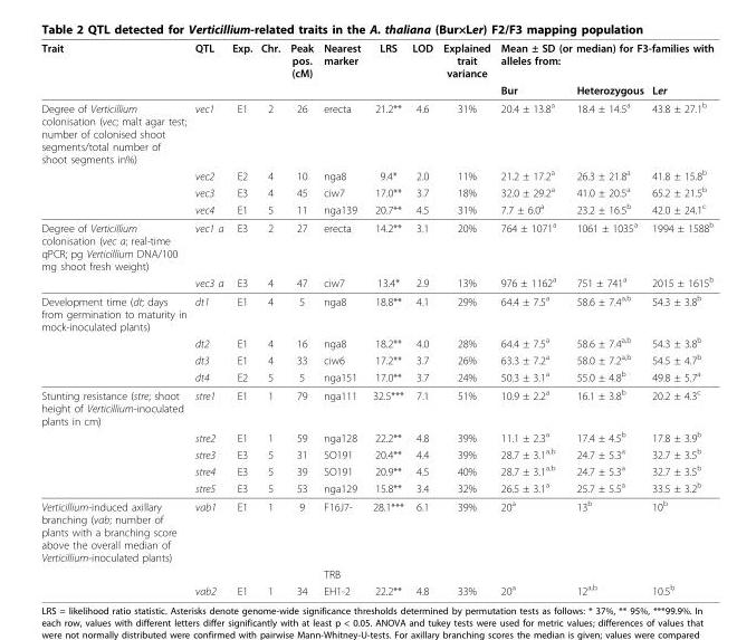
<table><thead><tr><td rowspan="2">Trait</td><td rowspan="2">QTL</td><td rowspan="2">Exp.</td><td rowspan="2">Chr.</td><td rowspan="2">Peak pos. (cM)</td><td rowspan="2">Nearest marker</td><td rowspan="2">LRS</td><td rowspan="2">LOD</td><td rowspan="2">Explained trait variance</td><td colspan="3">Mean ± SD (or median) for F3-families with alleles from:</td></tr><tr><td>Bur</td><td>Heterozygous</td><td>Ler</td></tr></thead><tbody><tr><td rowspan="4">Degree of Verticillium colonisation (vec; malt agar test; number of colonised shoot segments/total number of shoot segments in%)</td><td>vec1</td><td>E1</td><td>2</td><td>26</td><td>erecta</td><td>21.2**</td><td>4.6</td><td>31%</td><td>20.4 ± 13.8<sup>a</sup></td><td>18.4 ± 14.5<sup>a</sup></td><td>43.8 ± 27.1<sup>b</sup></td></tr><tr><td>vec2</td><td>E2</td><td>4</td><td>10</td><td>nga8</td><td>9.4*</td><td>2.0</td><td>11%</td><td>21.2 ± 17.2<sup>a</sup></td><td>26.3 ± 21.8<sup>a</sup></td><td>41.8 ± 15.8<sup>b</sup></td></tr><tr><td>vec3</td><td>E3</td><td>4</td><td>45</td><td>ciw7</td><td>17.0**</td><td>3.7</td><td>18%</td><td>32.0 ± 29.2<sup>a</sup></td><td>41.0 ± 20.5<sup>a</sup></td><td>65.2 ± 21.5<sup>b</sup></td></tr><tr><td>vec4</td><td>E1</td><td>5</td><td>11</td><td>nga139</td><td>20.7**</td><td>4.5</td><td>31%</td><td>7.7 ± 6.0<sup>a</sup></td><td>23.2 ± 16.5<sup>b</sup></td><td>42.0 ± 24.1<sup>c</sup></td></tr><tr><td rowspan="2">Degree of Verticillium colonisation (vec a; real-time qPCR; pg Verticillium DNA/100 mg shoot fresh weight)</td><td>vec1 a</td><td>E3</td><td>2</td><td>27</td><td>erecta</td><td>14.2**</td><td>3.1</td><td>20%</td><td>764 ± 1071<sup>a</sup></td><td>1061 ± 1035<sup>a</sup></td><td>1994 ± 1588<sup>b</sup></td></tr><tr><td>vec3 a</td><td>E3</td><td>4</td><td>47</td><td>ciw7</td><td>13.4*</td><td>2.9</td><td>13%</td><td>976 ± 1162<sup>a</sup></td><td>751 ± 741<sup>a</sup></td><td>2015 ± 1615<sup>b</sup></td></tr><tr><td rowspan="4">Development time (dt; days from germination to maturity in mock-inoculated plants)</td><td>dt1</td><td>E1</td><td>4</td><td>5</td><td>nga8</td><td>18.8**</td><td>4.1</td><td>29%</td><td>64.4 ± 7.5<sup>a</sup></td><td>58.6 ± 7.4<sup>a,b</sup></td><td>54.3 ± 3.8<sup>b</sup></td></tr><tr><td>dt2</td><td>E1</td><td>4</td><td>16</td><td>nga8</td><td>18.2**</td><td>4.0</td><td>28%</td><td>64.4 ± 7.5<sup>a</sup></td><td>58.6 ± 7.4<sup>a,b</sup></td><td>54.3 ± 3.8<sup>b</sup></td></tr><tr><td>dt3</td><td>E1</td><td>4</td><td>33</td><td>ciw6</td><td>17.2**</td><td>3.7</td><td>26%</td><td>63.3 ± 7.2<sup>a</sup></td><td>58.0 ± 7.2<sup>a,b</sup></td><td>54.5 ± 4.7<sup>b</sup></td></tr><tr><td>dt4</td><td>E2</td><td>5</td><td>5</td><td>nga151</td><td>17.0**</td><td>3.7</td><td>24%</td><td>50.3 ± 3.1<sup>a</sup></td><td>55.0 ± 4.8<sup>b</sup></td><td>49.8 ± 5.7<sup>a</sup></td></tr><tr><td rowspan="5">Stunting resistance (stre; shoot height of Verticillium-inoculated plants in cm)</td><td>stre1</td><td>E1</td><td>1</td><td>79</td><td>nga111</td><td>32.5***</td><td>7.1</td><td>51%</td><td>10.9 ± 2.2<sup>a</sup></td><td>16.1 ± 3.8<sup>b</sup></td><td>20.2 ± 4.3<sup>c</sup></td></tr><tr><td>stre2</td><td>E1</td><td>1</td><td>59</td><td>nga128</td><td>22.2**</td><td>4.8</td><td>39%</td><td>11.1 ± 2.3<sup>a</sup></td><td>17.4 ± 4.5<sup>b</sup></td><td>17.8 ± 3.9<sup>b</sup></td></tr><tr><td>stre3</td><td>E3</td><td>5</td><td>31</td><td>SO191</td><td>20.4**</td><td>4.4</td><td>39%</td><td>28.7 ± 3.1<sup>a,b</sup></td><td>24.7 ± 5.3<sup>a</sup></td><td>32.7 ± 3.5<sup>b</sup></td></tr><tr><td>stre4</td><td>E3</td><td>5</td><td>39</td><td>SO191</td><td>20.9**</td><td>4.5</td><td>40%</td><td>28.7 ± 3.1<sup>a,b</sup></td><td>24.7 ± 5.3<sup>a</sup></td><td>32.7 ± 3.5<sup>b</sup></td></tr><tr><td>stre5</td><td>E3</td><td>5</td><td>53</td><td>nga129</td><td>15.8**</td><td>3.4</td><td>32%</td><td>26.5 ± 3.1<sup>a</sup></td><td>25.7 ± 5.5<sup>a</sup></td><td>33.5 ± 3.2<sup>b</sup></td></tr><tr><td rowspan="3">Verticillium-induced axillary branching (vab; number of plants with a branching score above the overall median of Verticillium-inoculated plants)</td><td>vab1</td><td>E1</td><td>1</td><td>9</td><td>F16J7-</td><td>28.1***</td><td>6.1</td><td>39%</td><td>20<sup>a</sup></td><td>13<sup>b</sup></td><td>10<sup>b</sup></td></tr><tr><td></td><td></td><td></td><td></td><td>TRB</td><td></td><td></td><td></td><td></td><td></td><td></td></tr><tr><td>vab2</td><td>E1</td><td>1</td><td>34</td><td>EH1-2</td><td>22.2**</td><td>4.8</td><td>33%</td><td>20<sup>a</sup></td><td>12<sup>a,b</sup></td><td>10.5<sup>b</sup></td></tr></tbody></table>